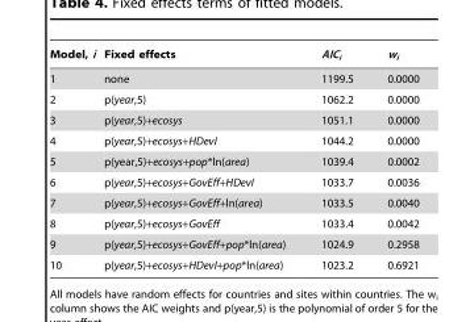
<table><thead><tr><td>Model, i</td><td>Fixed effects</td><td>AIC<sub>i</sub></td><td>w<sub>i</sub></td></tr></thead><tbody><tr><td>1</td><td>none</td><td>1199.5</td><td>0.0000</td></tr><tr><td>2</td><td>p(year,5)</td><td>1062.2</td><td>0.0000</td></tr><tr><td>3</td><td>p(year,5)+ecosys</td><td>1051.1</td><td>0.0000</td></tr><tr><td>4</td><td>p(year,5)+ecosys+HDevI</td><td>1044.2</td><td>0.0000</td></tr><tr><td>5</td><td>p(year,5)+ecosys+pop*ln(area)</td><td>1039.4</td><td>0.0002</td></tr><tr><td>6</td><td>p(year,5)+ecosys+GovEff+HDevI</td><td>1033.7</td><td>0.0036</td></tr><tr><td>7</td><td>p(year,5)+ecosys+GovEff+ln(area)</td><td>1033.5</td><td>0.0040</td></tr><tr><td>8</td><td>p(year,5)+ecosys+GovEff</td><td>1033.4</td><td>0.0042</td></tr><tr><td>9</td><td>p(year,5)+ecosys+GovEff+pop*ln(area)</td><td>1024.9</td><td>0.2958</td></tr><tr><td>10</td><td>p(year,5)+ecosys+HDevI+pop*ln(area)</td><td>1023.2</td><td>0.6921</td></tr></tbody></table>